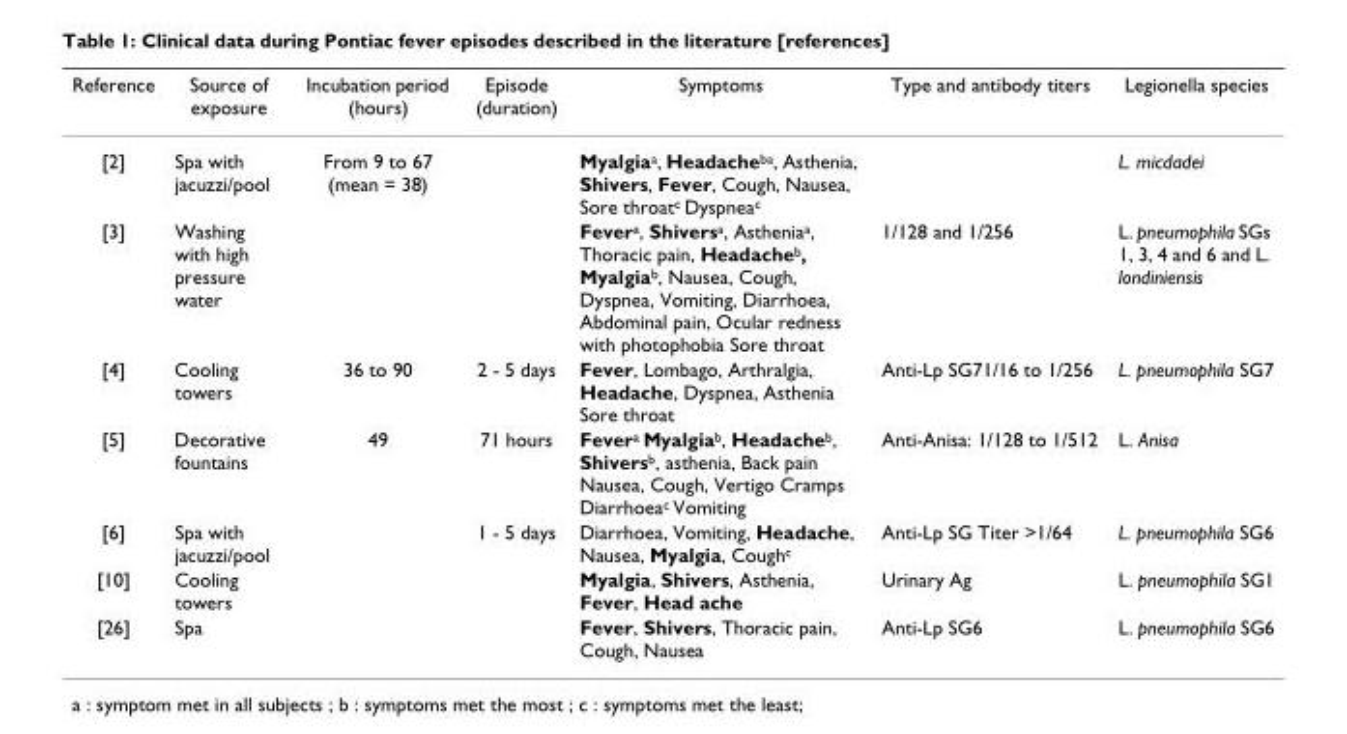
<table><thead><tr><td>Reference</td><td>Source of exposure</td><td>Incubation period (hours)</td><td>Episode (duration)</td><td>Symptoms</td><td>Type and antibody titers</td><td>Legionella species</td></tr></thead><tbody><tr><td>[2]</td><td>Spa with jacuzzi/pool</td><td>From 9 to 67 (mean = 38)</td><td></td><td>Myalgiaa, Headacheba, Asthenia, Shivers, Fever, Cough, Nausea, Sore throatc Dyspneac</td><td></td><td>L. micdadei</td></tr><tr><td>[3]</td><td>Washing with high pressure water</td><td></td><td></td><td>Fevera, Shiversa, Astheniaa, Thoracic pain, Headacheb, Myalgiab, Nausea, Cough, Dyspnea, Vomiting, Diarrhoea, Abdominal pain, Ocular redness with photophobia Sore throat</td><td>1/128 and 1/256</td><td>L. pneumophila SGs 1, 3, 4 and 6 and L. londiniensis</td></tr><tr><td>[4]</td><td>Cooling towers</td><td>36 to 90</td><td>2 - 5 days</td><td>Fever, Lombago, Arthralgia, Headache, Dyspnea, Asthenia Sore throat</td><td>Anti-Lp SG71/16 to 1/256</td><td>L. pneumophila SG7</td></tr><tr><td>[5]</td><td>Decorative fountains</td><td>49</td><td>71 hours</td><td>Fevera Myalgiab, Headacheb, Shiversb, asthenia, Back pain Nausea, Cough, Vertigo Cramps Diarrhoeac Vomiting</td><td>Anti-Anisa: 1/128 to 1/512</td><td>L. Anisa</td></tr><tr><td>[6]</td><td>Spa with jacuzzi/pool</td><td></td><td>1 - 5 days</td><td>Diarrhoea, Vomiting, Headache, Nausea, Myalgia, Coughc</td><td>Anti-Lp SG Titer &gt;1/64</td><td>L. pneumophila SG6</td></tr><tr><td>[10]</td><td>Cooling towers</td><td></td><td></td><td>Myalgia, Shivers, Asthenia, Fever, Head ache</td><td>Urinary Ag</td><td>L. pneumophila SG1</td></tr><tr><td>[26]</td><td>Spa</td><td></td><td></td><td>Fever, Shivers, Thoracic pain, Cough, Nausea</td><td>Anti-Lp SG6</td><td>L. pneumophila SG6</td></tr></tbody></table>